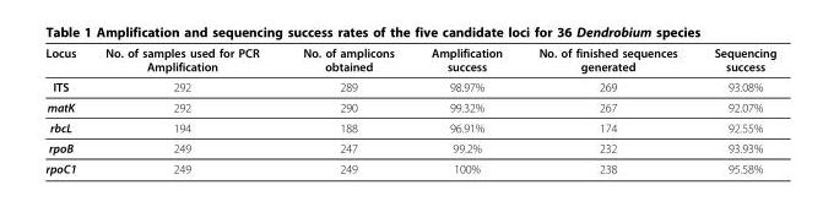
<table><thead><tr><td>Locus</td><td>No. of samples used for PCR Amplification</td><td>No. of amplicons obtained</td><td>Amplification success</td><td>No. of finished sequences generated</td><td>Sequencing success</td></tr></thead><tbody><tr><td>ITS</td><td>292</td><td>289</td><td>98.97%</td><td>269</td><td>93.08%</td></tr><tr><td>matK</td><td>292</td><td>290</td><td>99.32%</td><td>267</td><td>92.07%</td></tr><tr><td>rbcL</td><td>194</td><td>188</td><td>96.91%</td><td>174</td><td>92.55%</td></tr><tr><td>rpoB</td><td>249</td><td>247</td><td>99.2%</td><td>232</td><td>93.93%</td></tr><tr><td>rpoC1</td><td>249</td><td>249</td><td>100%</td><td>238</td><td>95.58%</td></tr></tbody></table>